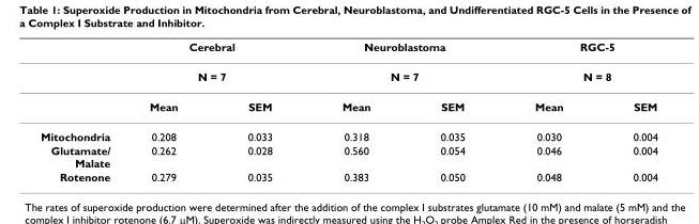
<table><thead><tr><td rowspan="3"></td><td rowspan="2" colspan="2">Cerebral N = 7</td><td rowspan="2" colspan="2">Neuroblastoma N = 7</td><td rowspan="2" colspan="2">RGC-5 N = 8</td></tr><tr></tr><tr><td>Mean</td><td>SEM</td><td>Mean</td><td>SEM</td><td>Mean</td><td>SEM</td></tr></thead><tbody><tr><td>Mitochondria</td><td>0.208</td><td>0.033</td><td>0.318</td><td>0.035</td><td>0.030</td><td>0.004</td></tr><tr><td>Glutamate/ Malate</td><td>0.262</td><td>0.028</td><td>0.560</td><td>0.054</td><td>0.046</td><td>0.004</td></tr><tr><td>Rotenone</td><td>0.279</td><td>0.035</td><td>0.383</td><td>0.050</td><td>0.048</td><td>0.004</td></tr></tbody></table>